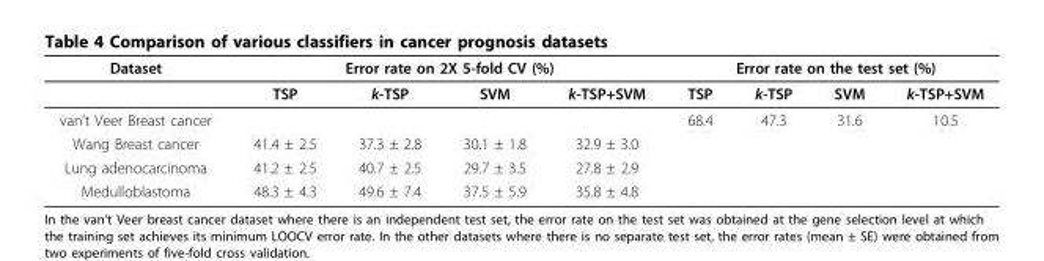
<table><thead><tr><td rowspan="2">Dataset</td><td colspan="4">Error rate on 2X 5-fold CV (%)</td><td colspan="4">Error rate on the test set (%)</td></tr><tr><td>TSP</td><td>k-TSP</td><td>SVM</td><td>k-TSP+SVM</td><td>TSP</td><td>k-TSP</td><td>SVM</td><td>k-TSP+SVM</td></tr></thead><tbody><tr><td>van’t Veer Breast cancer</td><td></td><td></td><td></td><td></td><td>68.4</td><td>47.3</td><td>31.6</td><td>10.5</td></tr><tr><td>Wang Breast cancer</td><td>41.4 ± 2.5</td><td>37.3 ± 2.8</td><td>30.1 ± 1.8</td><td>32.9 ± 3.0</td><td></td><td></td><td></td><td></td></tr><tr><td>Lung adenocarcinoma</td><td>41.2 ± 2.5</td><td>40.7 ± 2.5</td><td>29.7 ± 3.5</td><td>27.8 ± 2.9</td><td></td><td></td><td></td><td></td></tr><tr><td>Medulloblastoma</td><td>48.3 ± 4.3</td><td>49.6 ± 7.4</td><td>37.5 ± 5.9</td><td>35.8 ± 4.8</td><td></td><td></td><td></td><td></td></tr></tbody></table>